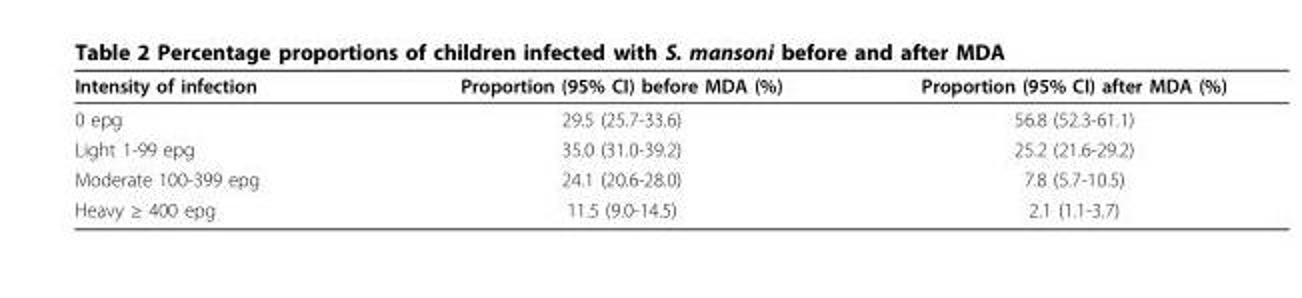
<table><thead><tr><td>Intensity of infection</td><td>Proportion (95% CI) before MDA (%)</td><td>Proportion (95% CI) after MDA (%)</td></tr></thead><tbody><tr><td>0 epg</td><td>29.5 (25.7-33.6)</td><td>56.8 (52.3-61.1)</td></tr><tr><td>Light 1-99 epg</td><td>35.0 (31.0-39.2)</td><td>25.2 (21.6-29.2)</td></tr><tr><td>Moderate 100-399 epg</td><td>24.1 (20.6-28.0)</td><td>7.8 (5.7-10.5)</td></tr><tr><td>Heavy ≥ 400 epg</td><td>11.5 (9.0-14.5)</td><td>2.1 (1.1-3.7)</td></tr></tbody></table>